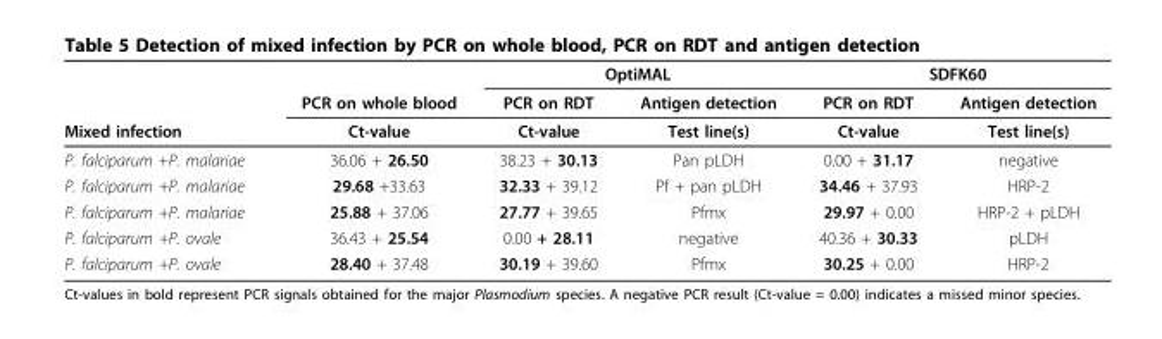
<table><thead><tr><td rowspan="3">Mixed infection</td><td rowspan="3">PCR on whole blood Ct-value</td><td colspan="2">OptiMAL</td><td colspan="2">SDFK60</td></tr><tr><td rowspan="2">PCR on RDT Ct-value</td><td rowspan="2">Antigen detection Test line(s)</td><td rowspan="2">PCR on RDT Ct-value</td><td rowspan="2">Antigen detection Test line(s)</td></tr><tr></tr></thead><tbody><tr><td>P. falciparum +P. malariae</td><td>36.06 + 26.50</td><td>38.23 + 30.13</td><td>Pan pLDH</td><td>0.00 + 31.17</td><td>negative</td></tr><tr><td>P. falciparum +P. malariae</td><td>29.68 +33.63</td><td>32.33 + 39.12</td><td>Pf + pan pLDH</td><td>34.46 + 37.93</td><td>HRP-2</td></tr><tr><td>P. falciparum +P. malariae</td><td>25.88 + 37.06</td><td>27.77 + 39.65</td><td>Pfmx</td><td>29.97 + 0.00</td><td>HRP-2 + pLDH</td></tr><tr><td>P. falciparum +P. ovale</td><td>36.43 + 25.54</td><td>0.00 + 28.11</td><td>negative</td><td>40.36 + 30.33</td><td>pLDH</td></tr><tr><td>P. falciparum +P. ovale</td><td>28.40 + 37.48</td><td>30.19 + 39.60</td><td>Pfmx</td><td>30.25 + 0.00</td><td>HRP-2</td></tr></tbody></table>